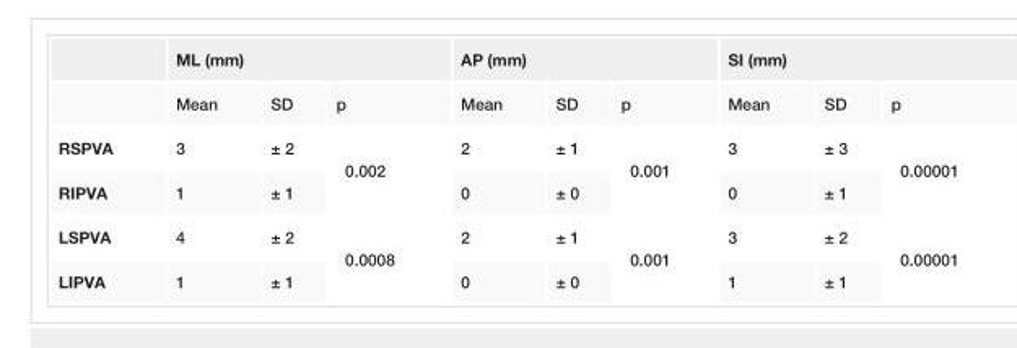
<table><thead><tr><td rowspan="2"></td><td colspan="3">ML (mm)</td><td colspan="3">AP (mm)</td><td colspan="3">SI (mm)</td></tr><tr><td>Mean</td><td>SD</td><td>p</td><td>Mean</td><td>SD</td><td>p</td><td>Mean</td><td>SD</td><td>p</td></tr></thead><tbody><tr><td>RSPVA</td><td>3</td><td>± 2</td><td rowspan="2">0.002</td><td>2</td><td>± 1</td><td rowspan="2">0.001</td><td>3</td><td>± 3</td><td rowspan="2">0.00001</td></tr><tr><td>RIPVA</td><td>1</td><td>± 1</td><td>0</td><td>± 0</td><td>0</td><td>± 1</td></tr><tr><td>LSPVA</td><td>4</td><td>± 2</td><td rowspan="2">0.0008</td><td>2</td><td>± 1</td><td rowspan="2">0.001</td><td>3</td><td>± 2</td><td rowspan="2">0.00001</td></tr><tr><td>LIPVA</td><td>1</td><td>± 1</td><td>0</td><td>± 0</td><td>1</td><td>± 1</td></tr></tbody></table>